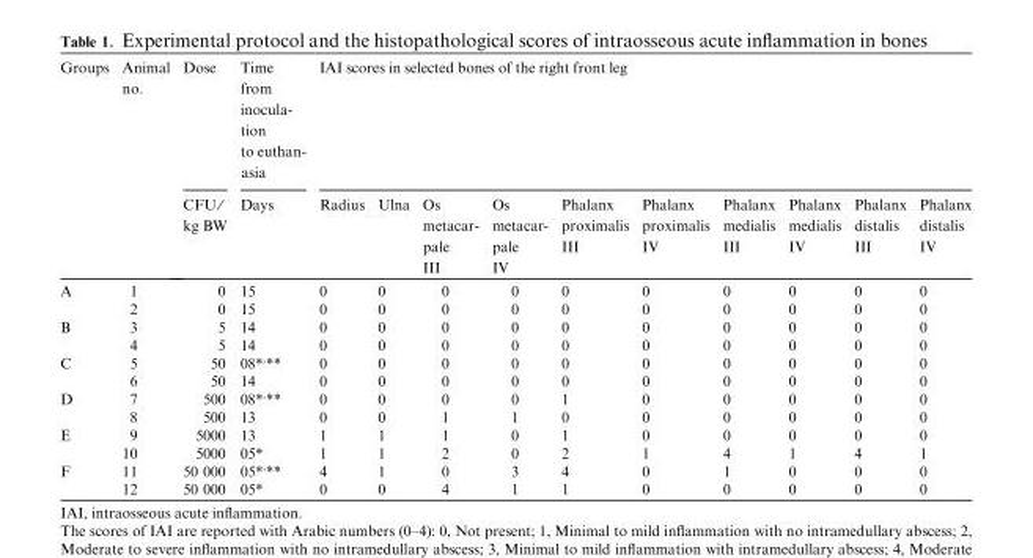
<table><thead><tr><td rowspan="2">Groups</td><td rowspan="2">Animal no.</td><td rowspan="2">Dose CFU ⁄ kg BW</td><td rowspan="2">Time from inocula- tion to euthan- asia Days</td><td colspan="10">IAI scores in selected bones of the right front leg</td></tr><tr><td>Radius</td><td>Ulna</td><td>Os metacar- pale III</td><td>Os metacar- pale IV</td><td>Phalanx proximalis III</td><td>Phalanx proximalis IV</td><td>Phalanx medialis III</td><td>Phalanx medialis IV</td><td>Phalanx distalis III</td><td>Phalanx distalis IV</td></tr></thead><tbody><tr><td rowspan="2">A</td><td>1</td><td>0</td><td>15</td><td>0</td><td>0</td><td>0</td><td>0</td><td>0</td><td>0</td><td>0</td><td>0</td><td>0</td><td>0</td></tr><tr><td>2</td><td>0</td><td>15</td><td>0</td><td>0</td><td>0</td><td>0</td><td>0</td><td>0</td><td>0</td><td>0</td><td>0</td><td>0</td></tr><tr><td rowspan="2">B</td><td>3</td><td>5</td><td>14</td><td>0</td><td>0</td><td>0</td><td>0</td><td>0</td><td>0</td><td>0</td><td>0</td><td>0</td><td>0</td></tr><tr><td>4</td><td>5</td><td>14</td><td>0</td><td>0</td><td>0</td><td>0</td><td>0</td><td>0</td><td>0</td><td>0</td><td>0</td><td>0</td></tr><tr><td rowspan="2">C</td><td>5</td><td>50</td><td>08*,**</td><td>0</td><td>0</td><td>0</td><td>0</td><td>0</td><td>0</td><td>0</td><td>0</td><td>0</td><td>0</td></tr><tr><td>6</td><td>50</td><td>14</td><td>0</td><td>0</td><td>0</td><td>0</td><td>0</td><td>0</td><td>0</td><td>0</td><td>0</td><td>0</td></tr><tr><td rowspan="2">D</td><td>7</td><td>500</td><td>08*,**</td><td>0</td><td>0</td><td>0</td><td>0</td><td>1</td><td>0</td><td>0</td><td>0</td><td>0</td><td>0</td></tr><tr><td>8</td><td>500</td><td>13</td><td>0</td><td>0</td><td>1</td><td>1</td><td>0</td><td>0</td><td>0</td><td>0</td><td>0</td><td>0</td></tr><tr><td rowspan="2">E</td><td>9</td><td>5000</td><td>13</td><td>1</td><td>1</td><td>1</td><td>0</td><td>1</td><td>0</td><td>0</td><td>0</td><td>0</td><td>0</td></tr><tr><td>10</td><td>5000</td><td>05*</td><td>1</td><td>1</td><td>2</td><td>0</td><td>2</td><td>1</td><td>4</td><td>1</td><td>4</td><td>1</td></tr><tr><td rowspan="2">F</td><td>11</td><td>50 000</td><td>05*,**</td><td>4</td><td>1</td><td>0</td><td>3</td><td>4</td><td>0</td><td>1</td><td>0</td><td>0</td><td>0</td></tr><tr><td>12</td><td>50 000</td><td>05*</td><td>0</td><td>0</td><td>4</td><td>1</td><td>1</td><td>0</td><td>0</td><td>0</td><td>0</td><td>0</td></tr></tbody></table>